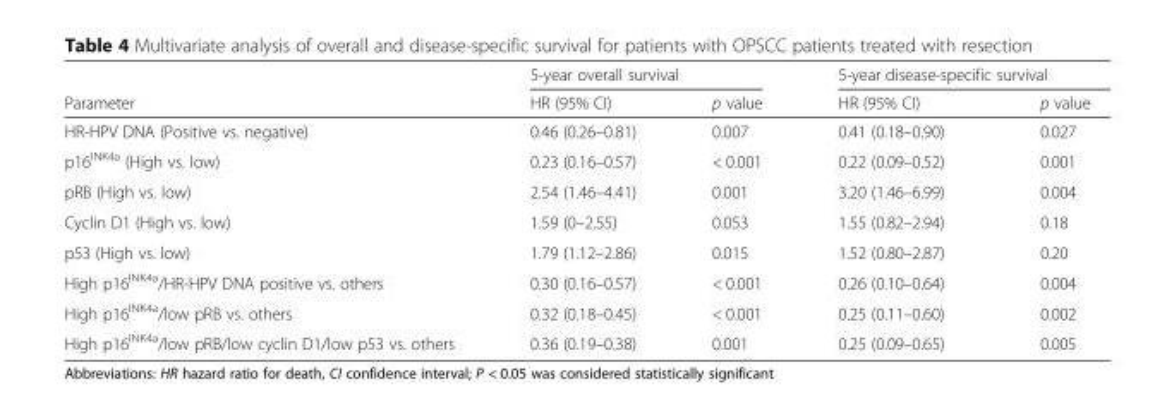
<table><thead><tr><td rowspan="2">Parameter</td><td colspan="2">5-year overall survival</td><td colspan="2">5-year disease-specific survival</td></tr><tr><td>HR (95% CI)</td><td>p value</td><td>HR (95% CI)</td><td>p value</td></tr></thead><tbody><tr><td>HR-HPV DNA (Positive vs. negative)</td><td>0.46 (0.26–0.81)</td><td>0.007</td><td>0.41 (0.18–0.90)</td><td>0.027</td></tr><tr><td>p16<sup>INK4a</sup> (High vs. low)</td><td>0.23 (0.16–0.57)</td><td>&lt; 0.001</td><td>0.22 (0.09–0.52)</td><td>0.001</td></tr><tr><td>pRB (High vs. low)</td><td>2.54 (1.46–4.41)</td><td>0.001</td><td>3.20 (1.46–6.99)</td><td>0.004</td></tr><tr><td>Cyclin D1 (High vs. low)</td><td>1.59 (0–2.55)</td><td>0.053</td><td>1.55 (0.82–2.94)</td><td>0.18</td></tr><tr><td>p53 (High vs. low)</td><td>1.79 (1.12–2.86)</td><td>0.015</td><td>1.52 (0.80–2.87)</td><td>0.20</td></tr><tr><td>High p16<sup>INK4a</sup>/HR-HPV DNA positive vs. others</td><td>0.30 (0.16–0.57)</td><td>&lt; 0.001</td><td>0.26 (0.10–0.64)</td><td>0.004</td></tr><tr><td>High p16<sup>INK4a</sup>/low pRB vs. others</td><td>0.32 (0.18–0.45)</td><td>&lt; 0.001</td><td>0.25 (0.11–0.60)</td><td>0.002</td></tr><tr><td>High p16<sup>INK4a</sup>/low pRB/low cyclin D1/low p53 vs. others</td><td>0.36 (0.19–0.38)</td><td>0.001</td><td>0.25 (0.09–0.65)</td><td>0.005</td></tr></tbody></table>